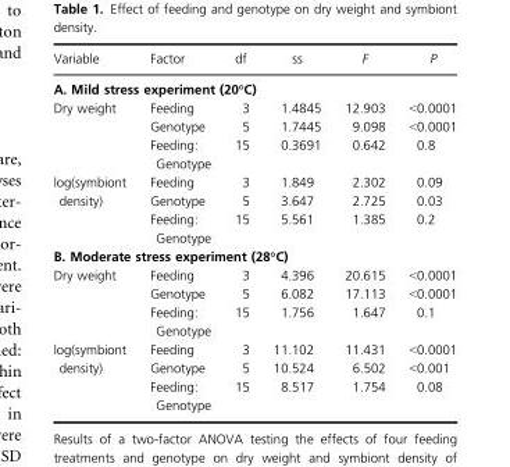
<table><thead><tr><td>Variable</td><td>Factor</td><td>df</td><td>ss</td><td>F</td><td>P</td></tr></thead><tbody><tr><td colspan="6">A. Mild stress experiment (20°C)</td></tr><tr><td rowspan="3">Dry weight</td><td>Feeding</td><td>3</td><td>1.4845</td><td>12.903</td><td>&lt;0.0001</td></tr><tr><td>Genotype</td><td>5</td><td>1.7445</td><td>9.098</td><td>&lt;0.0001</td></tr><tr><td>Feeding: Genotype</td><td>15</td><td>0.3691</td><td>0.642</td><td>0.8</td></tr><tr><td rowspan="3">log(symbiont density)</td><td>Feeding</td><td>3</td><td>1.849</td><td>2.302</td><td>0.09</td></tr><tr><td>Genotype</td><td>5</td><td>3.647</td><td>2.725</td><td>0.03</td></tr><tr><td>Feeding: Genotype</td><td>15</td><td>5.561</td><td>1.385</td><td>0.2</td></tr><tr><td colspan="6">B. Moderate stress experiment (28°C)</td></tr><tr><td rowspan="3">Dry weight</td><td>Feeding</td><td>3</td><td>4.396</td><td>20.615</td><td>&lt;0.0001</td></tr><tr><td>Genotype</td><td>5</td><td>6.082</td><td>17.113</td><td>&lt;0.0001</td></tr><tr><td>Feeding: Genotype</td><td>15</td><td>1.756</td><td>1.647</td><td>0.1</td></tr><tr><td rowspan="3">log(symbiont density)</td><td>Feeding</td><td>3</td><td>11.102</td><td>11.431</td><td>&lt;0.0001</td></tr><tr><td>Genotype</td><td>5</td><td>10.524</td><td>6.502</td><td>&lt;0.001</td></tr><tr><td>Feeding: Genotype</td><td>15</td><td>8.517</td><td>1.754</td><td>0.08</td></tr></tbody></table>